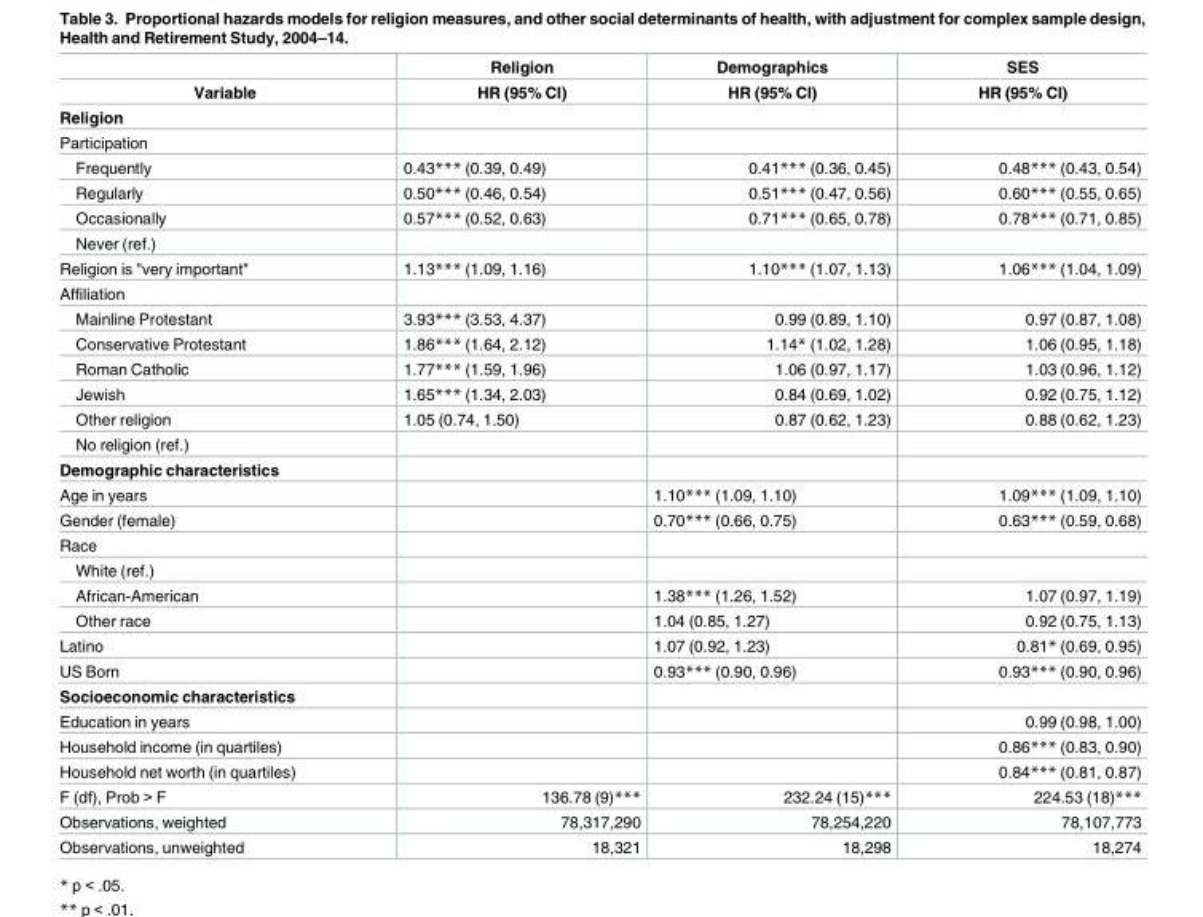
<table><thead><tr><td rowspan="2">Variable</td><td rowspan="2">Religion HR (95% CI)</td><td rowspan="2">Demographics HR (95% CI)</td><td rowspan="2">SES HR (95% CI)</td></tr><tr></tr></thead><tbody><tr><td colspan="4">Religion</td></tr><tr><td colspan="4">Participation</td></tr><tr><td>Frequently</td><td>0.43*** (0.39, 0.49)</td><td>0.41*** (0.36, 0.45)</td><td>0.48*** (0.43, 0.54)</td></tr><tr><td>Regularly</td><td>0.50*** (0.46, 0.54)</td><td>0.51*** (0.47, 0.56)</td><td>0.60*** (0.55, 0.65)</td></tr><tr><td>Occasionally</td><td>0.57*** (0.52, 0.63)</td><td>0.71*** (0.65, 0.78)</td><td>0.78*** (0.71, 0.85)</td></tr><tr><td colspan="4">Never (ref.)</td></tr><tr><td>Religion is &quot;very important&quot;</td><td>1.13*** (1.09, 1.16)</td><td>1.10*** (1.07, 1.13)</td><td>1.06*** (1.04, 1.09)</td></tr><tr><td colspan="4">Affiliation</td></tr><tr><td>Mainline Protestant</td><td>3.93*** (3.53, 4.37)</td><td>0.99 (0.89, 1.10)</td><td>0.97 (0.87, 1.08)</td></tr><tr><td>Conservative Protestant</td><td>1.86*** (1.64, 2.12)</td><td>1.14* (1.02, 1.28)</td><td>1.06 (0.95, 1.18)</td></tr><tr><td>Roman Catholic</td><td>1.77*** (1.59, 1.96)</td><td>1.06 (0.97, 1.17)</td><td>1.03 (0.96, 1.12)</td></tr><tr><td>Jewish</td><td>1.65*** (1.34, 2.03)</td><td>0.84 (0.69, 1.02)</td><td>0.92 (0.75, 1.12)</td></tr><tr><td>Other religion</td><td>1.05 (0.74, 1.50)</td><td>0.87 (0.62, 1.23)</td><td>0.88 (0.62, 1.23)</td></tr><tr><td colspan="4">No religion (ref.)</td></tr><tr><td colspan="4">Demographic characteristics</td></tr><tr><td>Age in years</td><td></td><td>1.10*** (1.09, 1.10)</td><td>1.09*** (1.09, 1.10)</td></tr><tr><td>Gender (female)</td><td></td><td>0.70*** (0.66, 0.75)</td><td>0.63*** (0.59, 0.68)</td></tr><tr><td colspan="4">Race</td></tr><tr><td colspan="4">White (ref.)</td></tr><tr><td>African-American</td><td></td><td>1.38*** (1.26, 1.52)</td><td>1.07 (0.97, 1.19)</td></tr><tr><td>Other race</td><td></td><td>1.04 (0.85, 1.27)</td><td>0.92 (0.75, 1.13)</td></tr><tr><td>Latino</td><td></td><td>1.07 (0.92, 1.23)</td><td>0.81* (0.69, 0.95)</td></tr><tr><td>US Born</td><td></td><td>0.93*** (0.90, 0.96)</td><td>0.93*** (0.90, 0.96)</td></tr><tr><td colspan="4">Socioeconomic characteristics</td></tr><tr><td>Education in years</td><td></td><td></td><td>0.99 (0.98, 1.00)</td></tr><tr><td>Household income (in quartiles)</td><td></td><td></td><td>0.86*** (0.83, 0.90)</td></tr><tr><td>Household net worth (in quartiles)</td><td></td><td></td><td>0.84*** (0.81, 0.87)</td></tr><tr><td>F (df), Prob &gt; F</td><td>136.78 (9)***</td><td>232.24 (15)***</td><td>224.53 (18)***</td></tr><tr><td>Observations, weighted</td><td>78,317,290</td><td>78,254,220</td><td>78,107,773</td></tr><tr><td>Observations, unweighted</td><td>18,321</td><td>18,298</td><td>18,274</td></tr></tbody></table>